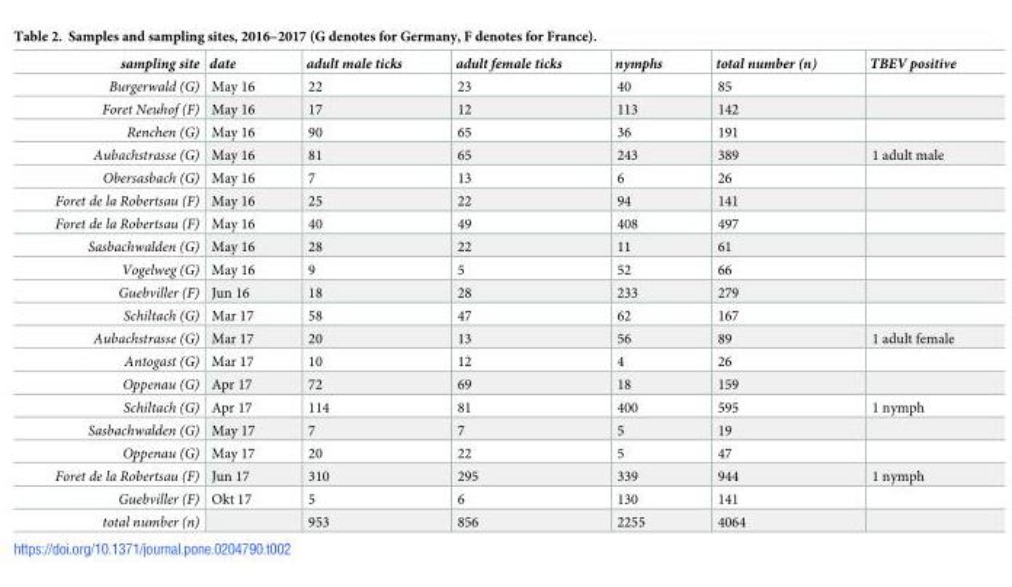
<table><thead><tr><td>sampling site</td><td>date</td><td>adult male ticks</td><td>adult female ticks</td><td>nymphs</td><td>total number (n)</td><td>TBEV positive</td></tr></thead><tbody><tr><td>Burgerwald (G)</td><td>May 16</td><td>22</td><td>23</td><td>40</td><td>85</td><td></td></tr><tr><td>Foret Neuhof (F)</td><td>May 16</td><td>17</td><td>12</td><td>113</td><td>142</td><td></td></tr><tr><td>Renchen (G)</td><td>May 16</td><td>90</td><td>65</td><td>36</td><td>191</td><td></td></tr><tr><td>Aubachstrasse (G)</td><td>May 16</td><td>81</td><td>65</td><td>243</td><td>389</td><td>1 adult male</td></tr><tr><td>Obersasbach (G)</td><td>May 16</td><td>7</td><td>13</td><td>6</td><td>26</td><td></td></tr><tr><td>Foret de la Robertsau (F)</td><td>May 16</td><td>25</td><td>22</td><td>94</td><td>141</td><td></td></tr><tr><td>Foret de la Robertsau (F)</td><td>May 16</td><td>40</td><td>49</td><td>408</td><td>497</td><td></td></tr><tr><td>Sasbachwalden (G)</td><td>May 16</td><td>28</td><td>22</td><td>11</td><td>61</td><td></td></tr><tr><td>Vogelweg (G)</td><td>May 16</td><td>9</td><td>5</td><td>52</td><td>66</td><td></td></tr><tr><td>Guebviller (F)</td><td>Jun 16</td><td>18</td><td>28</td><td>233</td><td>279</td><td></td></tr><tr><td>Schiltach (G)</td><td>Mar 17</td><td>58</td><td>47</td><td>62</td><td>167</td><td></td></tr><tr><td>Aubachstrasse (G)</td><td>Mar 17</td><td>20</td><td>13</td><td>56</td><td>89</td><td>1 adult female</td></tr><tr><td>Antogast (G)</td><td>Mar 17</td><td>10</td><td>12</td><td>4</td><td>26</td><td></td></tr><tr><td>Oppenau (G)</td><td>Apr 17</td><td>72</td><td>69</td><td>18</td><td>159</td><td></td></tr><tr><td>Schiltach (G)</td><td>Apr 17</td><td>114</td><td>81</td><td>400</td><td>595</td><td>1 nymph</td></tr><tr><td>Sasbachwalden (G)</td><td>May 17</td><td>7</td><td>7</td><td>5</td><td>19</td><td></td></tr><tr><td>Oppenau (G)</td><td>May 17</td><td>20</td><td>22</td><td>5</td><td>47</td><td></td></tr><tr><td>Foret de la Robertsau (F)</td><td>Jun 17</td><td>310</td><td>295</td><td>339</td><td>944</td><td>1 nymph</td></tr><tr><td>Guebviller (F)</td><td>Okt 17</td><td>5</td><td>6</td><td>130</td><td>141</td><td></td></tr><tr><td>total number (n)</td><td></td><td>953</td><td>856</td><td>2255</td><td>4064</td><td></td></tr></tbody></table>